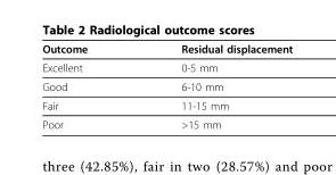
<table><thead><tr><td>Outcome</td><td>Residual displacement</td></tr></thead><tbody><tr><td>Excellent</td><td>0-5 mm</td></tr><tr><td>Good</td><td>6-10 mm</td></tr><tr><td>Fair</td><td>11-15 mm</td></tr><tr><td>Poor</td><td>&gt;15 mm</td></tr></tbody></table>